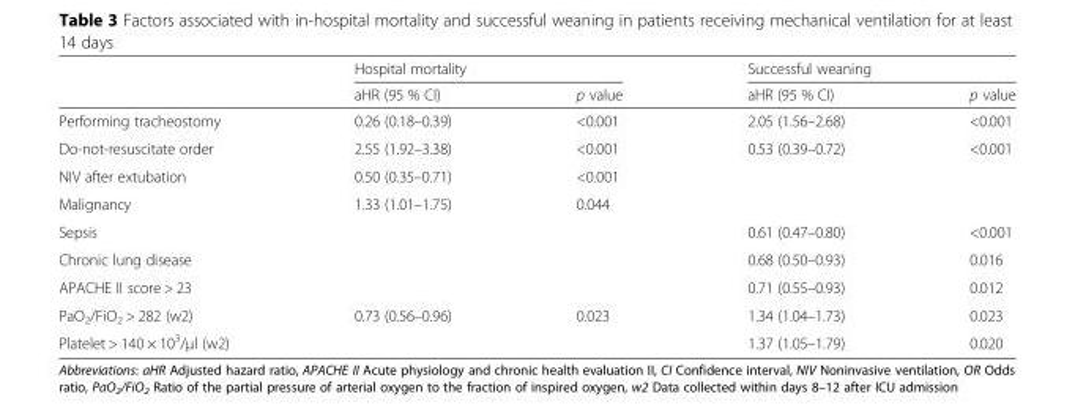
<table><thead><tr><td rowspan="2"></td><td colspan="2">Hospital mortality</td><td colspan="2">Successful weaning</td></tr><tr><td>aHR (95 % CI)</td><td>p value</td><td>aHR (95 % CI)</td><td>p value</td></tr></thead><tbody><tr><td>Performing tracheostomy</td><td>0.26 (0.18–0.39)</td><td>&lt;0.001</td><td>2.05 (1.56–2.68)</td><td>&lt;0.001</td></tr><tr><td>Do-not-resuscitate order</td><td>2.55 (1.92–3.38)</td><td>&lt;0.001</td><td>0.53 (0.39–0.72)</td><td>&lt;0.001</td></tr><tr><td>NIV after extubation</td><td>0.50 (0.35–0.71)</td><td>&lt;0.001</td><td></td><td></td></tr><tr><td>Malignancy</td><td>1.33 (1.01–1.75)</td><td>0.044</td><td></td><td></td></tr><tr><td>Sepsis</td><td></td><td></td><td>0.61 (0.47–0.80)</td><td>&lt;0.001</td></tr><tr><td>Chronic lung disease</td><td></td><td></td><td>0.68 (0.50–0.93)</td><td>0.016</td></tr><tr><td>APACHE II score &gt; 23</td><td></td><td></td><td>0.71 (0.55–0.93)</td><td>0.012</td></tr><tr><td>PaO<sub>2</sub>/FiO<sub>2</sub> &gt; 282 (w2)</td><td>0.73 (0.56–0.96)</td><td>0.023</td><td>1.34 (1.04–1.73)</td><td>0.023</td></tr><tr><td>Platelet &gt; 140 × 10<sup>3</sup>/μl (w2)</td><td></td><td></td><td>1.37 (1.05–1.79)</td><td>0.020</td></tr></tbody></table>